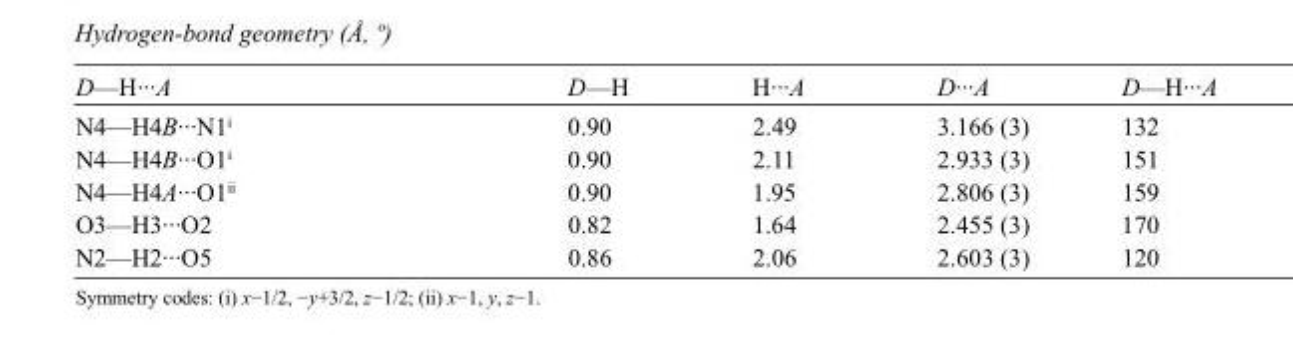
<table><tbody><tr><td>D—H···A</td><td>D—H</td><td>H···A</td><td>D···A</td><td>D—H···A</td></tr><tr><td>N4—H4B···N1<sup>i</sup></td><td>0.90</td><td>2.49</td><td>3.166 (3)</td><td>132</td></tr><tr><td>N4—H4B···O1<sup>i</sup></td><td>0.90</td><td>2.11</td><td>2.933 (3)</td><td>151</td></tr><tr><td>N4—H4A···O1<sup>ii</sup></td><td>0.90</td><td>1.95</td><td>2.806 (3)</td><td>159</td></tr><tr><td>O3—H3···O2</td><td>0.82</td><td>1.64</td><td>2.455 (3)</td><td>170</td></tr><tr><td>N2—H2···O5</td><td>0.86</td><td>2.06</td><td>2.603 (3)</td><td>120</td></tr></tbody></table>